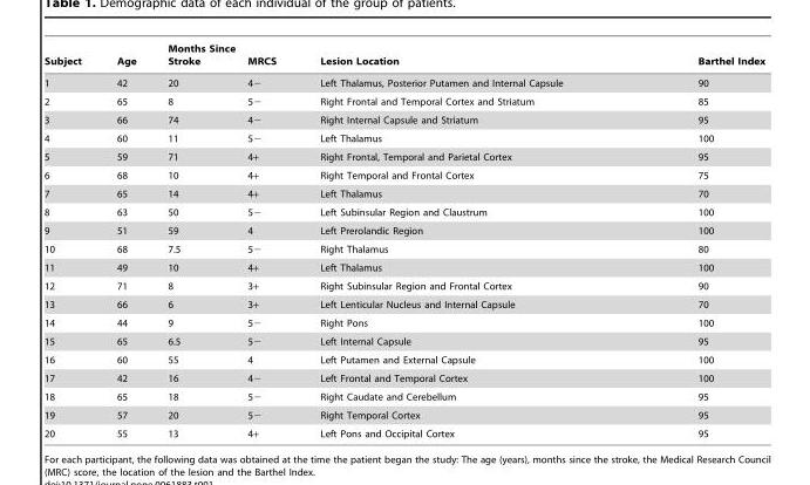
<table><thead><tr><td>Subject</td><td>Age</td><td>Months Since Stroke</td><td>MRCS</td><td>Lesion Location</td><td>Barthel Index</td></tr></thead><tbody><tr><td>1</td><td>42</td><td>20</td><td>4−</td><td>Left Thalamus, Posterior Putamen and Internal Capsule</td><td>90</td></tr><tr><td>2</td><td>65</td><td>8</td><td>5−</td><td>Right Frontal and Temporal Cortex and Striatum</td><td>85</td></tr><tr><td>3</td><td>66</td><td>74</td><td>4−</td><td>Right Internal Capsule and Striatum</td><td>95</td></tr><tr><td>4</td><td>60</td><td>11</td><td>5−</td><td>Left Thalamus</td><td>100</td></tr><tr><td>5</td><td>59</td><td>71</td><td>4+</td><td>Right Frontal, Temporal and Parietal Cortex</td><td>95</td></tr><tr><td>6</td><td>68</td><td>10</td><td>4+</td><td>Right Temporal and Frontal Cortex</td><td>75</td></tr><tr><td>7</td><td>65</td><td>14</td><td>4+</td><td>Left Thalamus</td><td>70</td></tr><tr><td>8</td><td>63</td><td>50</td><td>5−</td><td>Left Subinsular Region and Claustrum</td><td>100</td></tr><tr><td>9</td><td>51</td><td>59</td><td>4</td><td>Left Prerolandic Region</td><td>100</td></tr><tr><td>10</td><td>68</td><td>7.5</td><td>5−</td><td>Right Thalamus</td><td>80</td></tr><tr><td>11</td><td>49</td><td>10</td><td>4+</td><td>Left Thalamus</td><td>100</td></tr><tr><td>12</td><td>71</td><td>8</td><td>3+</td><td>Right Subinsular Region and Frontal Cortex</td><td>90</td></tr><tr><td>13</td><td>66</td><td>6</td><td>3+</td><td>Left Lenticular Nucleus and Internal Capsule</td><td>70</td></tr><tr><td>14</td><td>44</td><td>9</td><td>5−</td><td>Right Pons</td><td>100</td></tr><tr><td>15</td><td>65</td><td>6.5</td><td>5−</td><td>Left Internal Capsule</td><td>95</td></tr><tr><td>16</td><td>60</td><td>55</td><td>4</td><td>Left Putamen and External Capsule</td><td>100</td></tr><tr><td>17</td><td>42</td><td>16</td><td>4−</td><td>Left Frontal and Temporal Cortex</td><td>100</td></tr><tr><td>18</td><td>65</td><td>18</td><td>5−</td><td>Right Caudate and Cerebellum</td><td>95</td></tr><tr><td>19</td><td>57</td><td>20</td><td>5−</td><td>Right Temporal Cortex</td><td>95</td></tr><tr><td>20</td><td>55</td><td>13</td><td>4+</td><td>Left Pons and Occipital Cortex</td><td>95</td></tr></tbody></table>